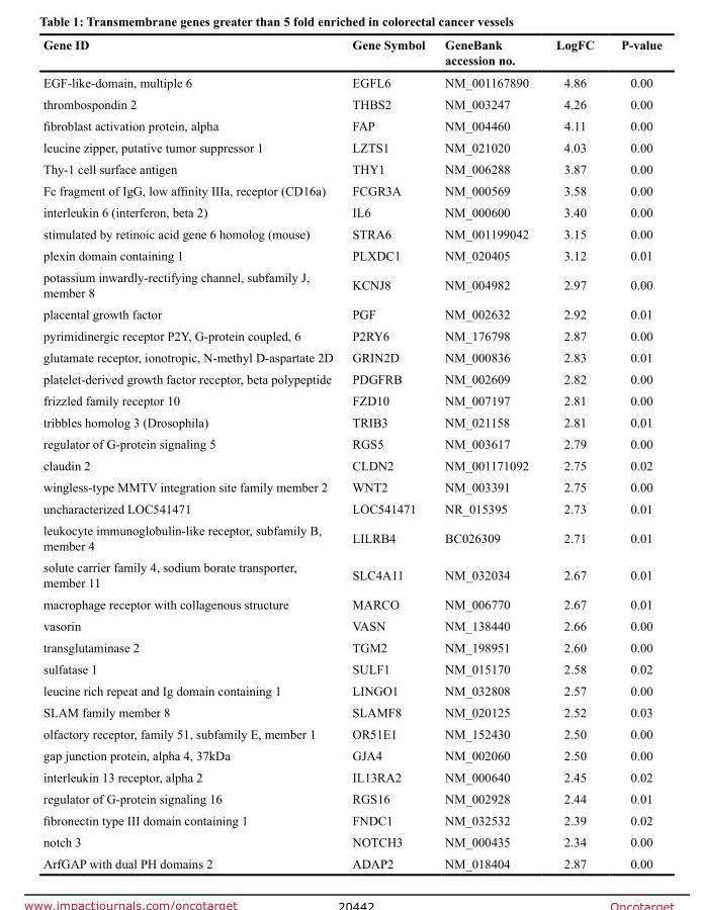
<table><thead><tr><td>Gene ID</td><td>Gene Symbol</td><td>GeneBank accession no.</td><td>LogFC</td><td>P-value</td></tr></thead><tbody><tr><td>EGF-like-domain, multiple 6</td><td>EGFL6</td><td>NM_001167890</td><td>4.86</td><td>0.00</td></tr><tr><td>thrombospondin 2</td><td>THBS2</td><td>NM_003247</td><td>4.26</td><td>0.00</td></tr><tr><td>fibroblast activation protein, alpha</td><td>FAP</td><td>NM_004460</td><td>4.11</td><td>0.00</td></tr><tr><td>leucine zipper, putative tumor suppressor 1</td><td>LZTS1</td><td>NM_021020</td><td>4.03</td><td>0.00</td></tr><tr><td>Thy-1 cell surface antigen</td><td>THY1</td><td>NM_006288</td><td>3.87</td><td>0.00</td></tr><tr><td>Fc fragment of IgG, low affinity IIIa, receptor (CD16a)</td><td>FCGR3A</td><td>NM_000569</td><td>3.58</td><td>0.00</td></tr><tr><td>interleukin 6 (interferon, beta 2)</td><td>IL6</td><td>NM_000600</td><td>3.40</td><td>0.00</td></tr><tr><td>stimulated by retinoic acid gene 6 homolog (mouse)</td><td>STRA6</td><td>NM_001199042</td><td>3.15</td><td>0.00</td></tr><tr><td>plexin domain containing 1</td><td>PLXDC1</td><td>NM_020405</td><td>3.12</td><td>0.01</td></tr><tr><td>potassium inwardly-rectifying channel, subfamily J, member 8</td><td>KCNJ8</td><td>NM_004982</td><td>2.97</td><td>0.00</td></tr><tr><td>placental growth factor</td><td>PGF</td><td>NM_002632</td><td>2.92</td><td>0.01</td></tr><tr><td>pyrimidinergic receptor P2Y, G-protein coupled, 6</td><td>P2RY6</td><td>NM_176798</td><td>2.87</td><td>0.00</td></tr><tr><td>glutamate receptor, ionotropic, N-methyl D-aspartate 2D</td><td>GRIN2D</td><td>NM_000836</td><td>2.83</td><td>0.01</td></tr><tr><td>platelet-derived growth factor receptor, beta polypeptide</td><td>PDGFRB</td><td>NM_002609</td><td>2.82</td><td>0.00</td></tr><tr><td>frizzled family receptor 10</td><td>FZD10</td><td>NM_007197</td><td>2.81</td><td>0.00</td></tr><tr><td>tribbles homolog 3 (Drosophila)</td><td>TRIB3</td><td>NM_021158</td><td>2.81</td><td>0.01</td></tr><tr><td>regulator of G-protein signaling 5</td><td>RGS5</td><td>NM_003617</td><td>2.79</td><td>0.00</td></tr><tr><td>claudin 2</td><td>CLDN2</td><td>NM_001171092</td><td>2.75</td><td>0.02</td></tr><tr><td>wingless-type MMTV integration site family member 2</td><td>WNT2</td><td>NM_003391</td><td>2.75</td><td>0.00</td></tr><tr><td>uncharacterized LOC541471</td><td>LOC541471</td><td>NR_015395</td><td>2.73</td><td>0.01</td></tr><tr><td>leukocyte immunoglobulin-like receptor, subfamily B, member 4</td><td>LILRB4</td><td>BC026309</td><td>2.71</td><td>0.01</td></tr><tr><td>solute carrier family 4, sodium borate transporter, member 11</td><td>SLC4A11</td><td>NM_032034</td><td>2.67</td><td>0.01</td></tr><tr><td>macrophage receptor with collagenous structure</td><td>MARCO</td><td>NM_006770</td><td>2.67</td><td>0.01</td></tr><tr><td>vasorin</td><td>VASN</td><td>NM_138440</td><td>2.66</td><td>0.00</td></tr><tr><td>transglutaminase 2</td><td>TGM2</td><td>NM_198951</td><td>2.60</td><td>0.00</td></tr><tr><td>sulfatase 1</td><td>SULF1</td><td>NM_015170</td><td>2.58</td><td>0.02</td></tr><tr><td>leucine rich repeat and Ig domain containing 1</td><td>LINGO1</td><td>NM_032808</td><td>2.57</td><td>0.00</td></tr><tr><td>SLAM family member 8</td><td>SLAMF8</td><td>NM_020125</td><td>2.52</td><td>0.03</td></tr><tr><td>olfactory receptor, family 51, subfamily E, member 1</td><td>OR51E1</td><td>NM_152430</td><td>2.50</td><td>0.00</td></tr><tr><td>gap junction protein, alpha 4, 37kDa</td><td>GJA4</td><td>NM_002060</td><td>2.50</td><td>0.00</td></tr><tr><td>interleukin 13 receptor, alpha 2</td><td>IL13RA2</td><td>NM_000640</td><td>2.45</td><td>0.02</td></tr><tr><td>regulator of G-protein signaling 16</td><td>RGS16</td><td>NM_002928</td><td>2.44</td><td>0.01</td></tr><tr><td>fibronectin type III domain containing 1</td><td>FNDC1</td><td>NM_032532</td><td>2.39</td><td>0.02</td></tr><tr><td>notch 3</td><td>NOTCH3</td><td>NM_000435</td><td>2.34</td><td>0.00</td></tr><tr><td>ArfGAP with dual PH domains 2</td><td>ADAP2</td><td>NM_018404</td><td>2.87</td><td>0.00</td></tr></tbody></table>